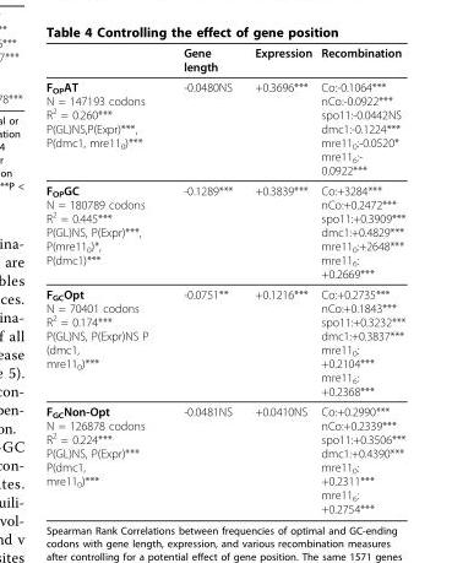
<table><thead><tr><td></td><td>Gene length</td><td>Expression</td><td>Recombination</td></tr></thead><tbody><tr><td>F<sub>OP</sub>AT N = 147193 codons R<sup>2</sup> = 0.260*** P(GL)NS,P(Expr)***, P(dmc1, mre11<sub>0</sub>)***</td><td>-0.0480NS</td><td>+0.3696***</td><td>Co:-0.1064*** nCo:-0.0922*** spo11:-0.0442NS dmc1:-0.1224*** mre11<sub>0</sub>:-0.0520* mre11<sub>6</sub>:- 0.0922***</td></tr><tr><td>F<sub>OP</sub>GC N = 180789 codons R<sup>2</sup> = 0.445*** P(GL)NS, P(Expr)***, P(mre11<sub>0</sub>)*, P(dmc1)***</td><td>-0.1289***</td><td>+0.3839***</td><td>Co:+3284*** nCo:+0.2472*** spo11:+0.3909*** dmc1:+0.4829*** mre11<sub>0</sub>:+2648*** mre11<sub>6</sub>: +0.2669***</td></tr><tr><td>F<sub>GC</sub>Opt N = 70401 codons R<sup>2</sup> = 0.174*** P(GL)NS, P(Expr)NS P (dmc1, mre11<sub>0</sub>)***</td><td>-0.0751**</td><td>+0.1216***</td><td>Co:+0.2735*** nCo:+0.1843*** spo11:+0.3232*** dmc1:+0.3837*** mre11<sub>0</sub>: +0.2104*** mre11<sub>6</sub>: +0.2368***</td></tr><tr><td>F<sub>GC</sub>Non-Opt N = 126878 codons R<sup>2</sup> = 0.224*** P(GL)NS, P(Expr)*** P(dmc1, mre11<sub>0</sub>)***</td><td>-0.0481NS</td><td>+0.0410NS</td><td>Co:+0.2990*** nCo:+0.2339*** spo11:+0.3506*** dmc1:+0.4390*** mre11<sub>0</sub>: +0.2311*** mre11<sub>6</sub>: +0.2754***</td></tr></tbody></table>